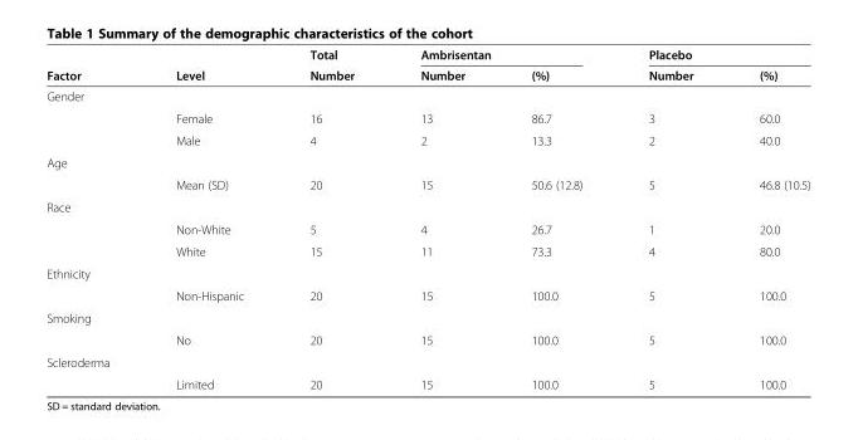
<table><thead><tr><td rowspan="2">Factor</td><td rowspan="2">Level</td><td rowspan="2">Total Number</td><td colspan="2">Ambrisentan</td><td colspan="2">Placebo</td></tr><tr><td>Number</td><td>(%)</td><td>Number</td><td>(%)</td></tr></thead><tbody><tr><td colspan="7">Gender</td></tr><tr><td></td><td>Female</td><td>16</td><td>13</td><td>86.7</td><td>3</td><td>60.0</td></tr><tr><td></td><td>Male</td><td>4</td><td>2</td><td>13.3</td><td>2</td><td>40.0</td></tr><tr><td colspan="7">Age</td></tr><tr><td></td><td>Mean (SD)</td><td>20</td><td>15</td><td>50.6 (12.8)</td><td>5</td><td>46.8 (10.5)</td></tr><tr><td colspan="7">Race</td></tr><tr><td></td><td>Non-White</td><td>5</td><td>4</td><td>26.7</td><td>1</td><td>20.0</td></tr><tr><td></td><td>White</td><td>15</td><td>11</td><td>73.3</td><td>4</td><td>80.0</td></tr><tr><td colspan="7">Ethnicity</td></tr><tr><td></td><td>Non-Hispanic</td><td>20</td><td>15</td><td>100.0</td><td>5</td><td>100.0</td></tr><tr><td colspan="7">Smoking</td></tr><tr><td></td><td>No</td><td>20</td><td>15</td><td>100.0</td><td>5</td><td>100.0</td></tr><tr><td colspan="7">Scleroderma</td></tr><tr><td></td><td>Limited</td><td>20</td><td>15</td><td>100.0</td><td>5</td><td>100.0</td></tr></tbody></table>